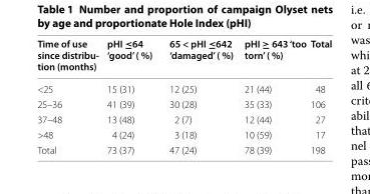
<table><thead><tr><td>Time of use since distribu- tion (months)</td><td>pHI ≤64 ‘good’ ( %)</td><td>65 &lt; pHI ≤642 ‘damaged’ ( %)</td><td>pHI ≥ 643 ‘too torn’ ( %)</td><td>Total</td></tr></thead><tbody><tr><td>&lt;25</td><td>15 (31)</td><td>12 (25)</td><td>21 (44)</td><td>48</td></tr><tr><td>25–36</td><td>41 (39)</td><td>30 (28)</td><td>35 (33)</td><td>106</td></tr><tr><td>37–48</td><td>13 (48)</td><td>2 (7)</td><td>12 (44)</td><td>27</td></tr><tr><td>&gt;48</td><td>4 (24)</td><td>3 (18)</td><td>10 (59)</td><td>17</td></tr><tr><td>Total</td><td>73 (37)</td><td>47 (24)</td><td>78 (39)</td><td>198</td></tr></tbody></table>